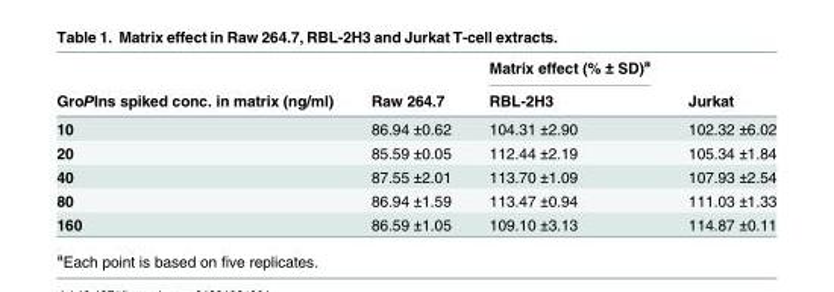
<table><thead><tr><td rowspan="2">GroPIns spiked conc. in matrix (ng/ml)</td><td rowspan="2">Raw 264.7</td><td rowspan="2">Matrix effect (% ± SD)<sup>a</sup> RBL-2H3</td><td rowspan="2">Jurkat</td></tr><tr></tr></thead><tbody><tr><td>10</td><td>86.94 ±0.62</td><td>104.31 ±2.90</td><td>102.32 ±6.02</td></tr><tr><td>20</td><td>85.59 ±0.05</td><td>112.44 ±2.19</td><td>105.34 ±1.84</td></tr><tr><td>40</td><td>87.55 ±2.01</td><td>113.70 ±1.09</td><td>107.93 ±2.54</td></tr><tr><td>80</td><td>86.94 ±1.59</td><td>113.47 ±0.94</td><td>111.03 ±1.33</td></tr><tr><td>160</td><td>86.59 ±1.05</td><td>109.10 ±3.13</td><td>114.87 ±0.11</td></tr></tbody></table>